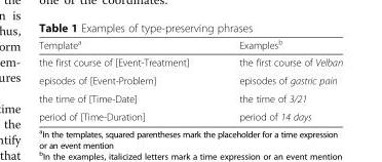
<table><thead><tr><td>Template<sup>a</sup></td><td>Examples<sup>b</sup></td></tr></thead><tbody><tr><td>the first course of [Event-Treatment]</td><td>the first course of Velban</td></tr><tr><td>episodes of [Event-Problem]</td><td>episodes of gastric pain</td></tr><tr><td>the time of [Time-Date]</td><td>the time of 3/21</td></tr><tr><td>period of [Time-Duration]</td><td>period of 14 days</td></tr></tbody></table>